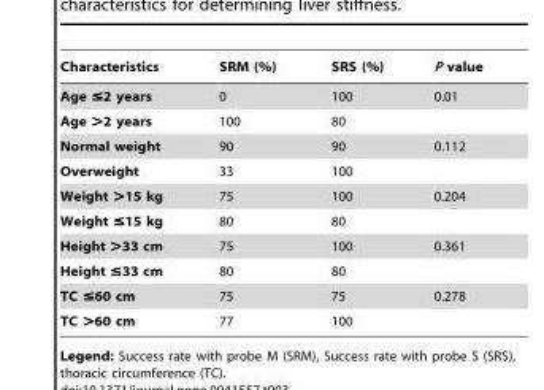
<table><thead><tr><td>Characteristics</td><td>SRM (%)</td><td>SRS (%)</td><td>P value</td></tr></thead><tbody><tr><td>Age ≤2 years</td><td>0</td><td>100</td><td>0.01</td></tr><tr><td>Age &gt;2 years</td><td>100</td><td>80</td><td></td></tr><tr><td>Normal weight</td><td>90</td><td>90</td><td>0.112</td></tr><tr><td>Overweight</td><td>33</td><td>100</td><td></td></tr><tr><td>Weight &gt;15 kg</td><td>75</td><td>100</td><td>0.204</td></tr><tr><td>Weight ≤15 kg</td><td>80</td><td>80</td><td></td></tr><tr><td>Height &gt;33 cm</td><td>75</td><td>100</td><td>0.361</td></tr><tr><td>Height ≤33 cm</td><td>80</td><td>80</td><td></td></tr><tr><td>TC ≤60 cm</td><td>75</td><td>75</td><td>0.278</td></tr><tr><td>TC &gt;60 cm</td><td>77</td><td>100</td><td></td></tr></tbody></table>